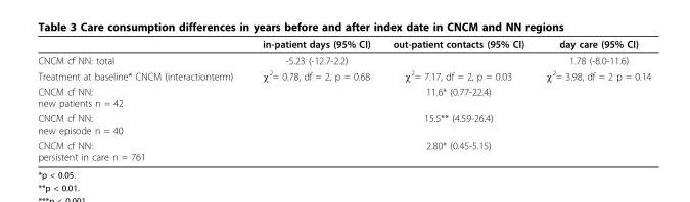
<table><thead><tr><td></td><td>in-patient days (95% CI)</td><td>out-patient contacts (95% CI)</td><td>day care (95% CI)</td></tr></thead><tbody><tr><td>CNCM cf NN: total</td><td>-5.23 (-12.7-2.2)</td><td></td><td>1.78 (-8.0-11.6)</td></tr><tr><td>Treatment at baseline* CNCM (interactionterm)</td><td>χ<sup>2</sup>= 0.78, df = 2, p = 0.68</td><td>χ<sup>2</sup>= 7.17, df = 2, p = 0.03</td><td>χ<sup>2</sup>= 3.98, df = 2 p = 0.14</td></tr><tr><td>CNCM cf NN: new patients n = 42</td><td></td><td>11.6* (0.77-22.4)</td><td></td></tr><tr><td>CNCM cf NN: new episode n = 40</td><td></td><td>15.5** (4.59-26.4)</td><td></td></tr><tr><td>CNCM cf NN: persistent in care n = 761</td><td></td><td>2.80* (0.45-5.15)</td><td></td></tr></tbody></table>